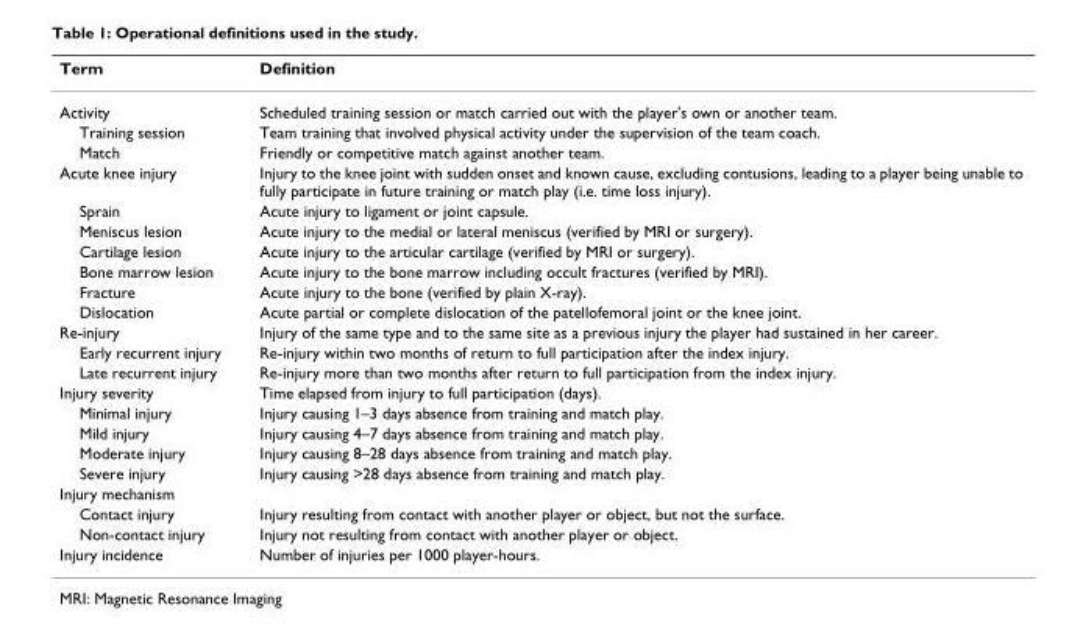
<table><thead><tr><td>Term</td><td>Definition</td></tr></thead><tbody><tr><td>Activity</td><td>Scheduled training session or match carried out with the player&#x27;s own or another team.</td></tr><tr><td>Training session</td><td>Team training that involved physical activity under the supervision of the team coach.</td></tr><tr><td>Match</td><td>Friendly or competitive match against another team.</td></tr><tr><td>Acute knee injury</td><td>Injury to the knee joint with sudden onset and known cause, excluding contusions, leading to a player being unable to fully participate in future training or match play (i.e. time loss injury).</td></tr><tr><td>Sprain</td><td>Acute injury to ligament or joint capsule.</td></tr><tr><td>Meniscus lesion</td><td>Acute injury to the medial or lateral meniscus (verified by MRI or surgery).</td></tr><tr><td>Cartilage lesion</td><td>Acute injury to the articular cartilage (verified by MRI or surgery).</td></tr><tr><td>Bone marrow lesion</td><td>Acute injury to the bone marrow including occult fractures (verified by MRI).</td></tr><tr><td>Fracture</td><td>Acute injury to the bone (verified by plain X-ray).</td></tr><tr><td>Dislocation</td><td>Acute partial or complete dislocation of the patellofemoral joint or the knee joint.</td></tr><tr><td>Re-injury</td><td>Injury of the same type and to the same site as a previous injury the player had sustained in her career.</td></tr><tr><td>Early recurrent injury</td><td>Re-injury within two months of return to full participation after the index injury.</td></tr><tr><td>Late recurrent injury</td><td>Re-injury more than two months after return to full participation from the index injury.</td></tr><tr><td>Injury severity</td><td>Time elapsed from injury to full participation (days).</td></tr><tr><td>Minimal injury</td><td>Injury causing 1–3 days absence from training and match play.</td></tr><tr><td>Mild injury</td><td>Injury causing 4–7 days absence from training and match play.</td></tr><tr><td>Moderate injury</td><td>Injury causing 8–28 days absence from training and match play.</td></tr><tr><td>Severe injury</td><td>Injury causing &gt;28 days absence from training and match play.</td></tr><tr><td colspan="2">Injury mechanism</td></tr><tr><td>Contact injury</td><td>Injury resulting from contact with another player or object, but not the surface.</td></tr><tr><td>Non-contact injury</td><td>Injury not resulting from contact with another player or object.</td></tr><tr><td>Injury incidence</td><td>Number of injuries per 1000 player-hours.</td></tr></tbody></table>